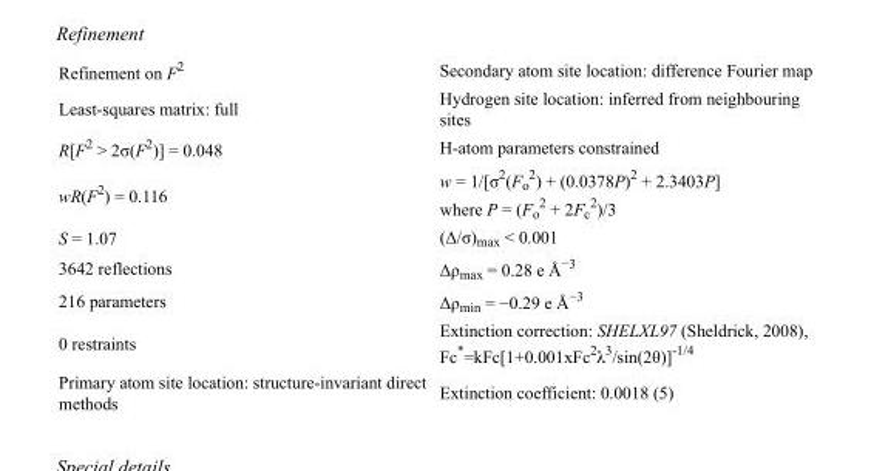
<table><tbody><tr><td>Refinement on F<sup>2</sup></td><td>Secondary atom site location: difference Fourier map</td></tr><tr><td>Least-squares matrix: full</td><td>Hydrogen site location: inferred from neighbouring sites</td></tr><tr><td>R[F<sup>2</sup> &gt; 2σ(F<sup>2</sup>)] = 0.048</td><td>H-atom parameters constrained</td></tr><tr><td>wR(F<sup>2</sup>) = 0.116</td><td>w = 1/[σ<sup>2</sup>(F<sub>o</sub> <sup>2</sup>) + (0.0378P)<sup>2</sup> + 2.3403P] where P = (F<sub>o</sub> <sup>2</sup> + 2F<sub>c</sub> <sup>2</sup>)/3</td></tr><tr><td>S = 1.07</td><td>(Δ/σ)<sub>max</sub> &lt; 0.001</td></tr><tr><td>3642 reflections</td><td>Δρ<sub>max</sub> = 0.28 e Å<sup>−3</sup></td></tr><tr><td>216 parameters</td><td>Δρ<sub>min</sub> = −0.29 e Å<sup>−3</sup></td></tr><tr><td>0 restraints</td><td>Extinction correction: SHELXL97 (Sheldrick, 2008), Fc*=kFc[1+0.001xFc<sup>2</sup>λ<sup>3</sup>/sin(2θ)]<sup>-1/4</sup></td></tr><tr><td>Primary atom site location: structure-invariant direct methods</td><td>Extinction coefficient: 0.0018 (5)</td></tr></tbody></table>